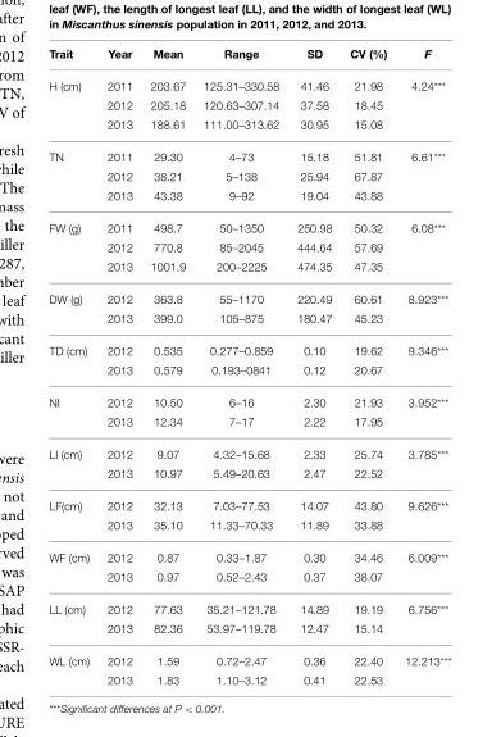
<table><thead><tr><td>Trait</td><td>Year</td><td>Mean</td><td>Range</td><td>SD</td><td>CV (%)</td><td>F</td></tr></thead><tbody><tr><td rowspan="3">H (cm)</td><td>2011</td><td>203.67</td><td>125.31–330.58</td><td>41.46</td><td>21.98</td><td>4.24***</td></tr><tr><td>2012</td><td>205.18</td><td>120.63–307.14</td><td>37.58</td><td>18.45</td><td></td></tr><tr><td>2013</td><td>188.61</td><td>111.00–313.62</td><td>30.95</td><td>15.08</td><td></td></tr><tr><td rowspan="3">TN</td><td>2011</td><td>29.30</td><td>4–73</td><td>15.18</td><td>51.81</td><td>6.61***</td></tr><tr><td>2012</td><td>38.21</td><td>5–138</td><td>25.94</td><td>67.87</td><td></td></tr><tr><td>2013</td><td>43.38</td><td>9–92</td><td>19.04</td><td>43.88</td><td></td></tr><tr><td rowspan="3">FW (g)</td><td>2011</td><td>498.7</td><td>50–1350</td><td>250.98</td><td>50.32</td><td>6.08***</td></tr><tr><td>2012</td><td>770.8</td><td>85–2045</td><td>444.64</td><td>57.69</td><td></td></tr><tr><td>2013</td><td>1001.9</td><td>200–2225</td><td>474.35</td><td>47.35</td><td></td></tr><tr><td rowspan="2">DW (g)</td><td>2012</td><td>363.8</td><td>55–1170</td><td>220.49</td><td>60.61</td><td>8.923***</td></tr><tr><td>2013</td><td>399.0</td><td>105–875</td><td>180.47</td><td>45.23</td><td></td></tr><tr><td rowspan="2">TD (cm)</td><td>2012</td><td>0.535</td><td>0.277–0.859</td><td>0.10</td><td>19.62</td><td>9.346***</td></tr><tr><td>2013</td><td>0.579</td><td>0.193–0841</td><td>0.12</td><td>20.67</td><td></td></tr><tr><td rowspan="2">NI</td><td>2012</td><td>10.50</td><td>6–16</td><td>2.30</td><td>21.93</td><td>3.952***</td></tr><tr><td>2013</td><td>12.34</td><td>7–17</td><td>2.22</td><td>17.95</td><td></td></tr><tr><td rowspan="2">LI (cm)</td><td>2012</td><td>9.07</td><td>4.32–15.68</td><td>2.33</td><td>25.74</td><td>3.785***</td></tr><tr><td>2013</td><td>10.97</td><td>5.49–20.63</td><td>2.47</td><td>22.52</td><td></td></tr><tr><td rowspan="2">LF(cm)</td><td>2012</td><td>32.13</td><td>7.03–77.53</td><td>14.07</td><td>43.80</td><td>9.626***</td></tr><tr><td>2013</td><td>35.10</td><td>11.33–70.33</td><td>11.89</td><td>33.88</td><td></td></tr><tr><td rowspan="2">WF (cm)</td><td>2012</td><td>0.87</td><td>0.33–1.87</td><td>0.30</td><td>34.46</td><td>6.009***</td></tr><tr><td>2013</td><td>0.97</td><td>0.52–2.43</td><td>0.37</td><td>38.07</td><td></td></tr><tr><td rowspan="2">LL (cm)</td><td>2012</td><td>77.63</td><td>35.21–121.78</td><td>14.89</td><td>19.19</td><td>6.756***</td></tr><tr><td>2013</td><td>82.36</td><td>53.97–119.78</td><td>12.47</td><td>15.14</td><td></td></tr><tr><td rowspan="2">WL (cm)</td><td>2012</td><td>1.59</td><td>0.72–2.47</td><td>0.36</td><td>22.40</td><td>12.213***</td></tr><tr><td>2013</td><td>1.83</td><td>1.10–3.12</td><td>0.41</td><td>22.53</td><td></td></tr></tbody></table>